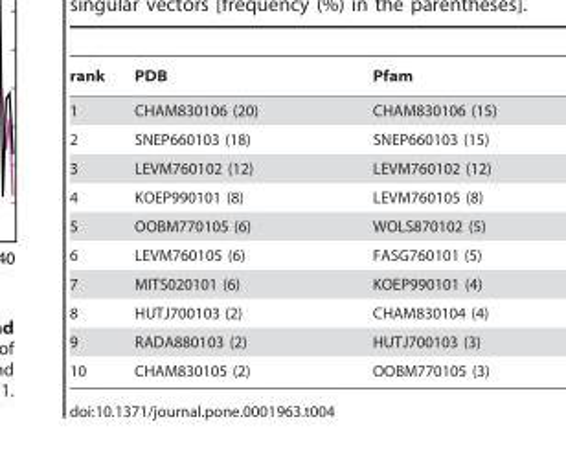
<table><thead><tr><td>rank</td><td>PDB</td><td>Pfam</td></tr></thead><tbody><tr><td>1</td><td>CHAM830106 (20)</td><td>CHAM830106 (15)</td></tr><tr><td>2</td><td>SNEP660103 (18)</td><td>SNEP660103 (15)</td></tr><tr><td>3</td><td>LEVM760102 (12)</td><td>LEVM760102 (12)</td></tr><tr><td>4</td><td>KOEP990101 (8)</td><td>LEVM760105 (8)</td></tr><tr><td>5</td><td>OOBM770105 (6)</td><td>WOLS870102 (5)</td></tr><tr><td>6</td><td>LEVM760105 (6)</td><td>FASG760101 (5)</td></tr><tr><td>7</td><td>MITS020101 (6)</td><td>KOEP990101 (4)</td></tr><tr><td>8</td><td>HUTJ700103 (2)</td><td>CHAM830104 (4)</td></tr><tr><td>9</td><td>RADA880103 (2)</td><td>HUTJ700103 (3)</td></tr><tr><td>10</td><td>CHAM830105 (2)</td><td>OOBM770105 (3)</td></tr></tbody></table>